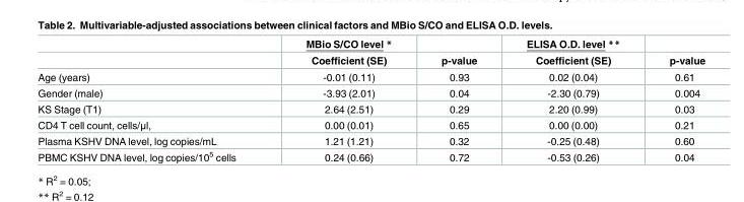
<table><thead><tr><td rowspan="2"></td><td rowspan="2">MBio S/CO level * Coefficient (SE)</td><td rowspan="2">p-value</td><td rowspan="2">ELISA O.D. level ** Coefficient (SE)</td><td rowspan="2">p-value</td></tr><tr></tr></thead><tbody><tr><td>Age (years)</td><td>-0.01 (0.11)</td><td>0.93</td><td>0.02 (0.04)</td><td>0.61</td></tr><tr><td>Gender (male)</td><td>-3.93 (2.01)</td><td>0.04</td><td>-2.30 (0.79)</td><td>0.004</td></tr><tr><td>KS Stage (T1)</td><td>2.64 (2.51)</td><td>0.29</td><td>2.20 (0.99)</td><td>0.03</td></tr><tr><td>CD4 T cell count, cells/μl,</td><td>0.00 (0.01)</td><td>0.65</td><td>0.00 (0.00)</td><td>0.21</td></tr><tr><td>Plasma KSHV DNA level, log copies/mL</td><td>1.21 (1.21)</td><td>0.32</td><td>-0.25 (0.48)</td><td>0.60</td></tr><tr><td>PBMC KSHV DNA level, log copies/10<sup>5</sup> cells</td><td>0.24 (0.66)</td><td>0.72</td><td>-0.53 (0.26)</td><td>0.04</td></tr></tbody></table>